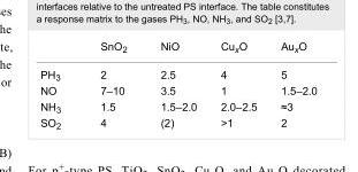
<table><thead><tr><td></td><td>SnO<sub>2</sub></td><td>NiO</td><td>Cu<sub>x</sub>O</td><td>Au<sub>x</sub>O</td></tr></thead><tbody><tr><td>PH<sub>3</sub></td><td>2</td><td>2.5</td><td>4</td><td>5</td></tr><tr><td>NO</td><td>7–10</td><td>3.5</td><td>1</td><td>1.5–2.0</td></tr><tr><td>NH<sub>3</sub></td><td>1.5</td><td>1.5–2.0</td><td>2.0–2.5</td><td>≈3</td></tr><tr><td>SO<sub>2</sub></td><td>4</td><td>(2)</td><td>&gt;1</td><td>2</td></tr></tbody></table>